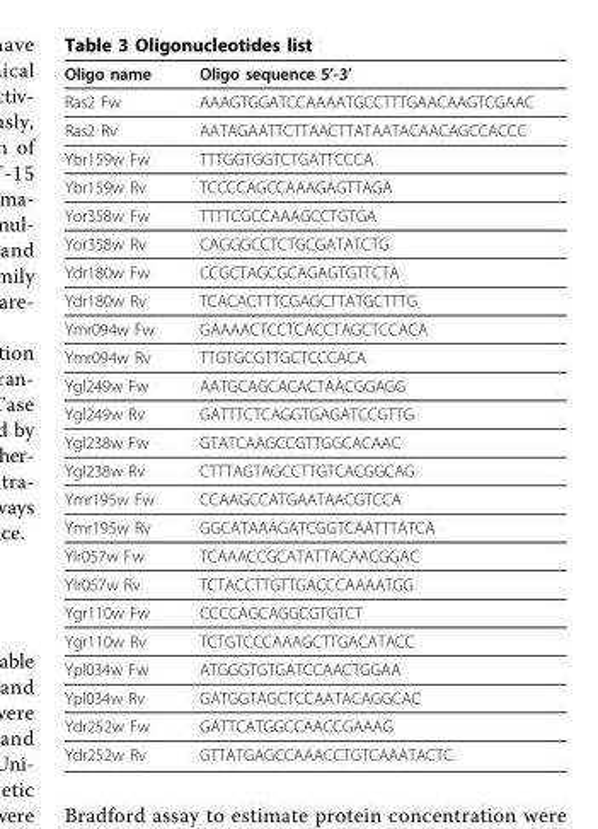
<table><thead><tr><td>Oligo name</td><td>Oligo sequence 5’-3’</td></tr></thead><tbody><tr><td>Ras2 Fw</td><td>AAAGTGGATCCAAAATGCCTTTGAACAAGTCGAAC</td></tr><tr><td>Ras2 Rv</td><td>AATAGAATTCTTAACTTATAATACAACAGCCACCC</td></tr><tr><td>Ybr159w Fw</td><td>TTTGGTGGTCTGATTCCCA</td></tr><tr><td>Ybr159w Rv</td><td>TCCCCAGCCAAAGAGTTAGA</td></tr><tr><td>Yor358w Fw</td><td>TTTTCGCCAAAGCCTGTGA</td></tr><tr><td>Yor358w Rv</td><td>CAGGGCCTCTGCGATATCTG</td></tr><tr><td>Ydr180w Fw</td><td>CCGCTAGCGCAGAGTGTTCTA</td></tr><tr><td>Ydr180w Rv</td><td>TCACACTTTCGAGCTTATGCTTTG</td></tr><tr><td>Ymr094w Fw</td><td>GAAAACTCCTCACCTAGCTCCACA</td></tr><tr><td>Ymr094w Rv</td><td>TTGTGCGTTGCTCCCACA</td></tr><tr><td>Ygl249w Fw</td><td>AATGCAGCACACTAACGGAGG</td></tr><tr><td>Ygl249w Rv</td><td>GATTTCTCAGGTGAGATCCGTTG</td></tr><tr><td>Ygl238w Fw</td><td>GTATCAAGCCGTTGGCACAAC</td></tr><tr><td>Ygl238w Rv</td><td>CTTTAGTAGCCTTGTCACGGCAG</td></tr><tr><td>Ymr195w Fw</td><td>CCAAGCCATGAATAACGTCCA</td></tr><tr><td>Ymr195w Rv</td><td>GGCATAAAGATCGGTCAATTTATCA</td></tr><tr><td>Ylr057w Fw</td><td>TCAAACCGCATATTACAACGGAC</td></tr><tr><td>Ylr057w Rv</td><td>TCTACCTTGTTGACCCAAAATGG</td></tr><tr><td>Ygr110w Fw</td><td>CCCCAGCAGGCGTGTCT</td></tr><tr><td>Ygr110w Rv</td><td>TCTGTCCCAAAGCTTGACATACC</td></tr><tr><td>Ypl034w Fw</td><td>ATGGGTGTGATCCAACTGGAA</td></tr><tr><td>Ypl034w Rv</td><td>GATGGTAGCTCCAATACAGGCAC</td></tr><tr><td>Ydr252w Fw</td><td>GATTCATGGCCAACCGAAAG</td></tr><tr><td>Ydr252w Rv</td><td>GTTATGAGCCAAACCTGTCAAATACTC</td></tr></tbody></table>